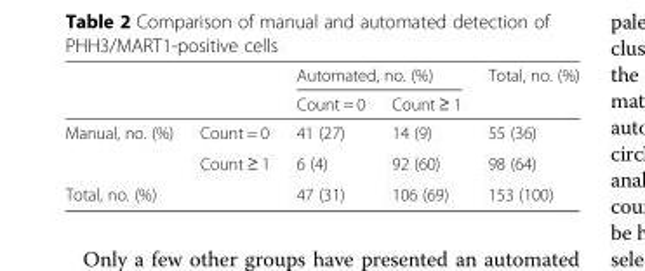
<table><thead><tr><td rowspan="2"></td><td rowspan="2"></td><td colspan="2">Automated, no. (%)</td><td rowspan="2">Total, no. (%)</td></tr><tr><td>Count = 0</td><td>Count ≥ 1</td></tr></thead><tbody><tr><td rowspan="2">Manual, no. (%)</td><td>Count = 0</td><td>41 (27)</td><td>14 (9)</td><td>55 (36)</td></tr><tr><td>Count ≥ 1</td><td>6 (4)</td><td>92 (60)</td><td>98 (64)</td></tr><tr><td colspan="2">Total, no. (%)</td><td>47 (31)</td><td>106 (69)</td><td>153 (100)</td></tr></tbody></table>